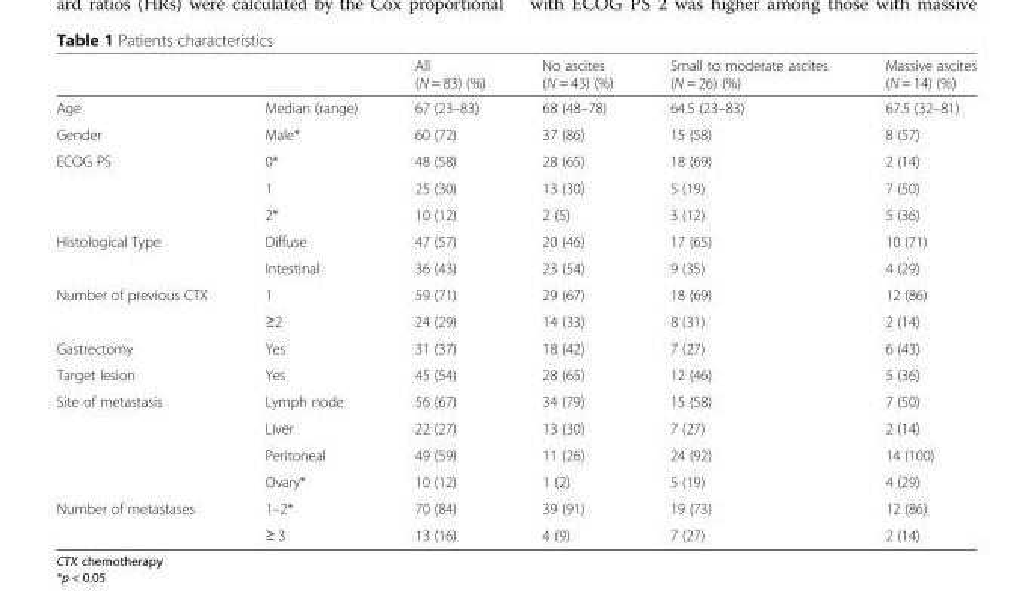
<table><thead><tr><td></td><td></td><td>All (N = 83) (%)</td><td>No ascites (N = 43) (%)</td><td>Small to moderate ascites (N = 26) (%)</td><td>Massive ascites (N = 14) (%)</td></tr></thead><tbody><tr><td>Age</td><td>Median (range)</td><td>67 (23–83)</td><td>68 (48–78)</td><td>64.5 (23–83)</td><td>67.5 (32–81)</td></tr><tr><td>Gender</td><td>Male*</td><td>60 (72)</td><td>37 (86)</td><td>15 (58)</td><td>8 (57)</td></tr><tr><td rowspan="3">ECOG PS</td><td>0*</td><td>48 (58)</td><td>28 (65)</td><td>18 (69)</td><td>2 (14)</td></tr><tr><td>1</td><td>25 (30)</td><td>13 (30)</td><td>5 (19)</td><td>7 (50)</td></tr><tr><td>2*</td><td>10 (12)</td><td>2 (5)</td><td>3 (12)</td><td>5 (36)</td></tr><tr><td rowspan="2">Histological Type</td><td>Diffuse</td><td>47 (57)</td><td>20 (46)</td><td>17 (65)</td><td>10 (71)</td></tr><tr><td>Intestinal</td><td>36 (43)</td><td>23 (54)</td><td>9 (35)</td><td>4 (29)</td></tr><tr><td rowspan="2">Number of previous CTX</td><td>1</td><td>59 (71)</td><td>29 (67)</td><td>18 (69)</td><td>12 (86)</td></tr><tr><td>≥2</td><td>24 (29)</td><td>14 (33)</td><td>8 (31)</td><td>2 (14)</td></tr><tr><td>Gastrectomy</td><td>Yes</td><td>31 (37)</td><td>18 (42)</td><td>7 (27)</td><td>6 (43)</td></tr><tr><td>Target lesion</td><td>Yes</td><td>45 (54)</td><td>28 (65)</td><td>12 (46)</td><td>5 (36)</td></tr><tr><td rowspan="4">Site of metastasis</td><td>Lymph node</td><td>56 (67)</td><td>34 (79)</td><td>15 (58)</td><td>7 (50)</td></tr><tr><td>Liver</td><td>22 (27)</td><td>13 (30)</td><td>7 (27)</td><td>2 (14)</td></tr><tr><td>Peritoneal</td><td>49 (59)</td><td>11 (26)</td><td>24 (92)</td><td>14 (100)</td></tr><tr><td>Ovary*</td><td>10 (12)</td><td>1 (2)</td><td>5 (19)</td><td>4 (29)</td></tr><tr><td rowspan="2">Number of metastases</td><td>1–2*</td><td>70 (84)</td><td>39 (91)</td><td>19 (73)</td><td>12 (86)</td></tr><tr><td>≥ 3</td><td>13 (16)</td><td>4 (9)</td><td>7 (27)</td><td>2 (14)</td></tr></tbody></table>